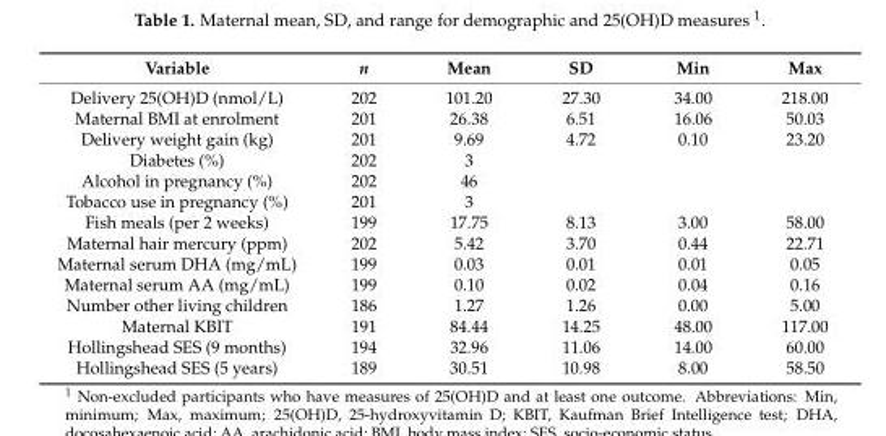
<table><thead><tr><td>Variable</td><td>n</td><td>Mean</td><td>SD</td><td>Min</td><td>Max</td></tr></thead><tbody><tr><td>Delivery 25(OH)D (nmol/L)</td><td>202</td><td>101.20</td><td>27.30</td><td>34.00</td><td>218.00</td></tr><tr><td>Maternal BMI at enrolment</td><td>201</td><td>26.38</td><td>6.51</td><td>16.06</td><td>50.03</td></tr><tr><td>Delivery weight gain (kg)</td><td>201</td><td>9.69</td><td>4.72</td><td>0.10</td><td>23.20</td></tr><tr><td>Diabetes (%)</td><td>202</td><td>3</td><td></td><td></td><td></td></tr><tr><td>Alcohol in pregnancy (%)</td><td>202</td><td>46</td><td></td><td></td><td></td></tr><tr><td>Tobacco use in pregnancy (%)</td><td>201</td><td>3</td><td></td><td></td><td></td></tr><tr><td>Fish meals (per 2 weeks)</td><td>199</td><td>17.75</td><td>8.13</td><td>3.00</td><td>58.00</td></tr><tr><td>Maternal hair mercury (ppm)</td><td>202</td><td>5.42</td><td>3.70</td><td>0.44</td><td>22.71</td></tr><tr><td>Maternal serum DHA (mg/mL)</td><td>199</td><td>0.03</td><td>0.01</td><td>0.01</td><td>0.05</td></tr><tr><td>Maternal serum AA (mg/mL)</td><td>199</td><td>0.10</td><td>0.02</td><td>0.04</td><td>0.16</td></tr><tr><td>Number other living children</td><td>186</td><td>1.27</td><td>1.26</td><td>0.00</td><td>5.00</td></tr><tr><td>Maternal KBIT</td><td>191</td><td>84.44</td><td>14.25</td><td>48.00</td><td>117.00</td></tr><tr><td>Hollingshead SES (9 months)</td><td>194</td><td>32.96</td><td>11.06</td><td>14.00</td><td>60.00</td></tr><tr><td>Hollingshead SES (5 years)</td><td>189</td><td>30.51</td><td>10.98</td><td>8.00</td><td>58.50</td></tr></tbody></table>